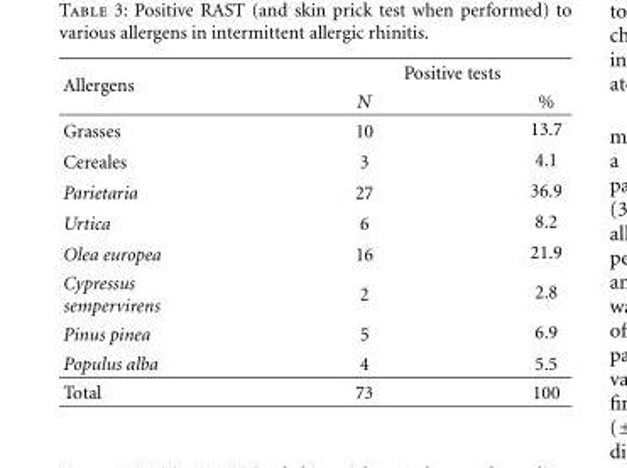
<table><thead><tr><td rowspan="2">Allergens</td><td colspan="2">Positive tests</td></tr><tr><td>N</td><td>%</td></tr></thead><tbody><tr><td>Grasses</td><td>10</td><td>13.7</td></tr><tr><td>Cereales</td><td>3</td><td>4.1</td></tr><tr><td>Parietaria</td><td>27</td><td>36.9</td></tr><tr><td>Urtica</td><td>6</td><td>8.2</td></tr><tr><td>Olea europea</td><td>16</td><td>21.9</td></tr><tr><td>Cypressus sempervirens</td><td>2</td><td>2.8</td></tr><tr><td>Pinus pinea</td><td>5</td><td>6.9</td></tr><tr><td>Populus alba</td><td>4</td><td>5.5</td></tr><tr><td>Total</td><td>73</td><td>100</td></tr></tbody></table>